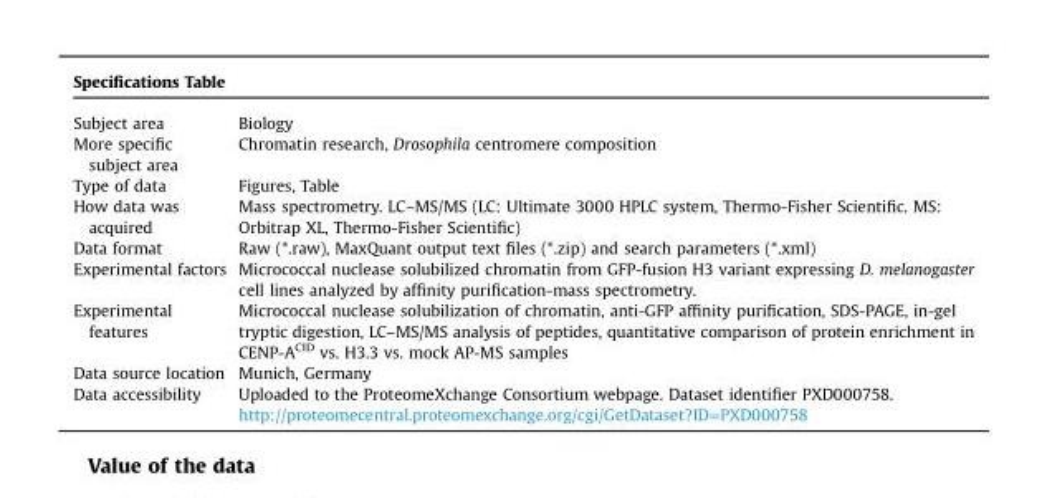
<table><tbody><tr><td colspan="2">Specifications Table</td></tr><tr><td>Subject area</td><td>Biology</td></tr><tr><td>More specific subject area</td><td>Chromatin research, Drosophila centromere composition</td></tr><tr><td>Type of data</td><td>Figures, Table</td></tr><tr><td>How data was acquired</td><td>Mass spectrometry. LC–MS/MS (LC: Ultimate 3000 HPLC system, Thermo-Fisher Scientific. MS: Orbitrap XL, Thermo-Fisher Scientific)</td></tr><tr><td>Data format</td><td>Raw (*.raw), MaxQuant output text files (*.zip) and search parameters (*.xml)</td></tr><tr><td>Experimental factors</td><td>Micrococcal nuclease solubilized chromatin from GFP-fusion H3 variant expressing D. melanogaster cell lines analyzed by affinity purification-mass spectrometry.</td></tr><tr><td>Experimental features</td><td>Micrococcal nuclease solubilization of chromatin, anti-GFP affinity purification, SDS-PAGE, in-gel tryptic digestion, LC–MS/MS analysis of peptides, quantitative comparison of protein enrichment in CENP-A<sup>CID</sup> vs. H3.3 vs. mock AP-MS samples</td></tr><tr><td>Data source location</td><td>Munich, Germany</td></tr><tr><td rowspan="2">Data accessibility</td><td>Uploaded to the ProteomeXchange Consortium webpage. Dataset identifier PXD000758.</td></tr><tr><td>http://proteomecentral.proteomexchange.org/cgi/GetDataset?ID=PXD000758</td></tr></tbody></table>